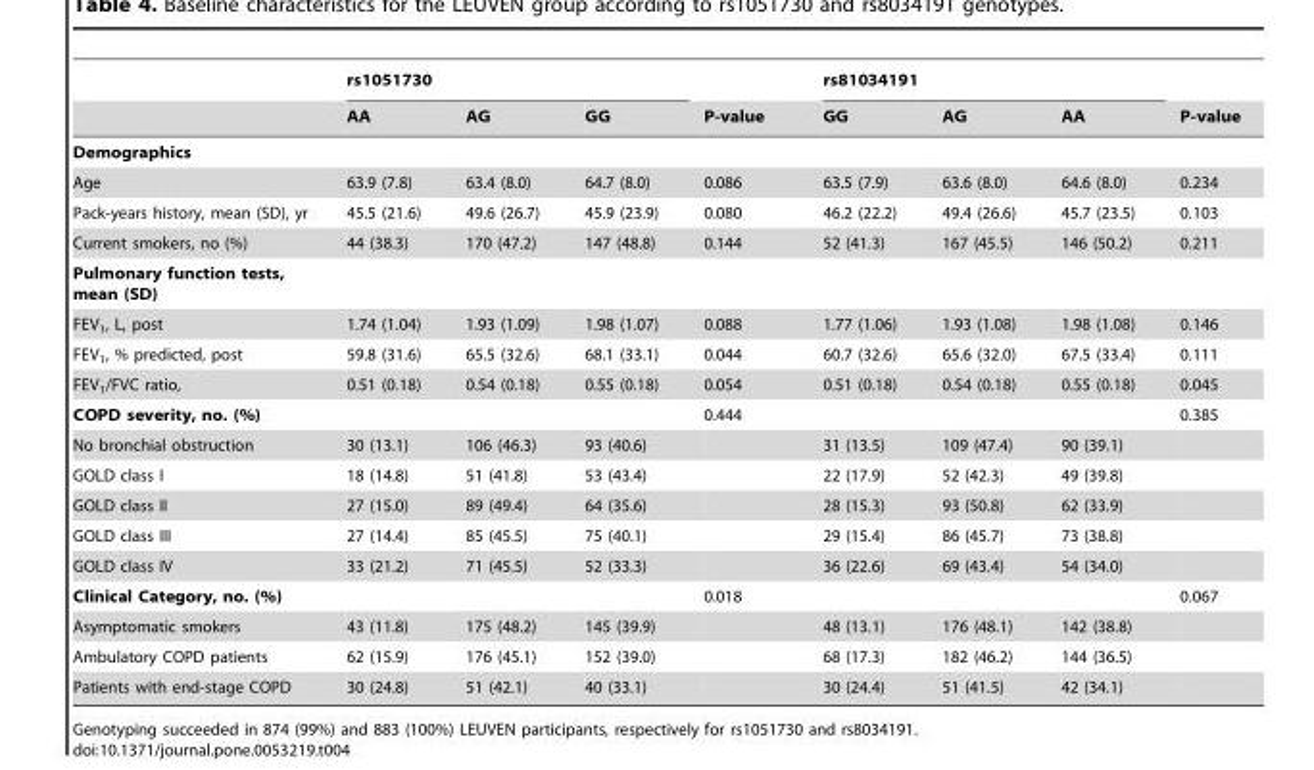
<table><thead><tr><td rowspan="2"></td><td colspan="3">rs1051730</td><td rowspan="2">P-value</td><td colspan="3">rs81034191</td><td rowspan="2">P-value</td></tr><tr><td>AA</td><td>AG</td><td>GG</td><td>GG</td><td>AG</td><td>AA</td></tr></thead><tbody><tr><td colspan="9">Demographics</td></tr><tr><td>Age</td><td>63.9 (7.8)</td><td>63.4 (8.0)</td><td>64.7 (8.0)</td><td>0.086</td><td>63.5 (7.9)</td><td>63.6 (8.0)</td><td>64.6 (8.0)</td><td>0.234</td></tr><tr><td>Pack-years history, mean (SD), yr</td><td>45.5 (21.6)</td><td>49.6 (26.7)</td><td>45.9 (23.9)</td><td>0.080</td><td>46.2 (22.2)</td><td>49.4 (26.6)</td><td>45.7 (23.5)</td><td>0.103</td></tr><tr><td>Current smokers, no (%)</td><td>44 (38.3)</td><td>170 (47.2)</td><td>147 (48.8)</td><td>0.144</td><td>52 (41.3)</td><td>167 (45.5)</td><td>146 (50.2)</td><td>0.211</td></tr><tr><td colspan="9">Pulmonary function tests, mean (SD)</td></tr><tr><td>FEV<sub>1</sub>, L, post</td><td>1.74 (1.04)</td><td>1.93 (1.09)</td><td>1.98 (1.07)</td><td>0.088</td><td>1.77 (1.06)</td><td>1.93 (1.08)</td><td>1.98 (1.08)</td><td>0.146</td></tr><tr><td>FEV<sub>1</sub>, % predicted, post</td><td>59.8 (31.6)</td><td>65.5 (32.6)</td><td>68.1 (33.1)</td><td>0.044</td><td>60.7 (32.6)</td><td>65.6 (32.0)</td><td>67.5 (33.4)</td><td>0.111</td></tr><tr><td>FEV<sub>1</sub>/FVC ratio,</td><td>0.51 (0.18)</td><td>0.54 (0.18)</td><td>0.55 (0.18)</td><td>0.054</td><td>0.51 (0.18)</td><td>0.54 (0.18)</td><td>0.55 (0.18)</td><td>0.045</td></tr><tr><td>COPD severity, no. (%)</td><td></td><td></td><td></td><td>0.444</td><td></td><td></td><td></td><td>0.385</td></tr><tr><td>No bronchial obstruction</td><td>30 (13.1)</td><td>106 (46.3)</td><td>93 (40.6)</td><td></td><td>31 (13.5)</td><td>109 (47.4)</td><td>90 (39.1)</td><td></td></tr><tr><td>GOLD class I</td><td>18 (14.8)</td><td>51 (41.8)</td><td>53 (43.4)</td><td></td><td>22 (17.9)</td><td>52 (42.3)</td><td>49 (39.8)</td><td></td></tr><tr><td>GOLD class II</td><td>27 (15.0)</td><td>89 (49.4)</td><td>64 (35.6)</td><td></td><td>28 (15.3)</td><td>93 (50.8)</td><td>62 (33.9)</td><td></td></tr><tr><td>GOLD class III</td><td>27 (14.4)</td><td>85 (45.5)</td><td>75 (40.1)</td><td></td><td>29 (15.4)</td><td>86 (45.7)</td><td>73 (38.8)</td><td></td></tr><tr><td>GOLD class IV</td><td>33 (21.2)</td><td>71 (45.5)</td><td>52 (33.3)</td><td></td><td>36 (22.6)</td><td>69 (43.4)</td><td>54 (34.0)</td><td></td></tr><tr><td>Clinical Category, no. (%)</td><td></td><td></td><td></td><td>0.018</td><td></td><td></td><td></td><td>0.067</td></tr><tr><td>Asymptomatic smokers</td><td>43 (11.8)</td><td>175 (48.2)</td><td>145 (39.9)</td><td></td><td>48 (13.1)</td><td>176 (48.1)</td><td>142 (38.8)</td><td></td></tr><tr><td>Ambulatory COPD patients</td><td>62 (15.9)</td><td>176 (45.1)</td><td>152 (39.0)</td><td></td><td>68 (17.3)</td><td>182 (46.2)</td><td>144 (36.5)</td><td></td></tr><tr><td>Patients with end-stage COPD</td><td>30 (24.8)</td><td>51 (42.1)</td><td>40 (33.1)</td><td></td><td>30 (24.4)</td><td>51 (41.5)</td><td>42 (34.1)</td><td></td></tr></tbody></table>